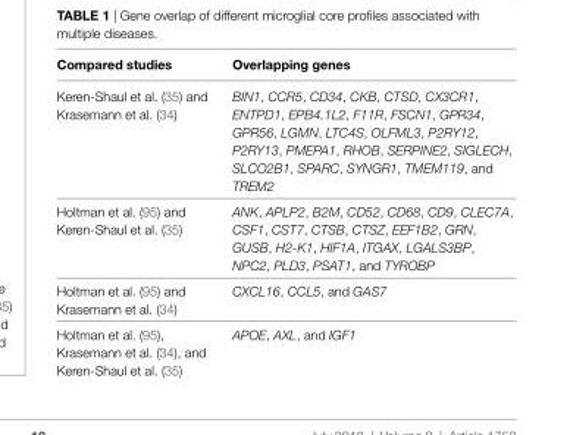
<table><thead><tr><td>Compared studies</td><td>Overlapping genes</td></tr></thead><tbody><tr><td>Keren-Shaul et al. (35) and Krasemann et al. (34)</td><td>BIN1, CCR5, CD34, CKB, CTSD, CX3CR1, ENTPD1, EPB4.1L2, F11R, FSCN1, GPR34, GPR56, LGMN, LTC4S, OLFML3, P2RY12, P2RY13, PMEPA1, RHOB, SERPINE2, SIGLECH, SLCO2B1, SPARC, SYNGR1, TMEM119, and TREM2</td></tr><tr><td>Holtman et al. (95) and Keren-Shaul et al. (35)</td><td>ANK, APLP2, B2M, CD52, CD68, CD9, CLEC7A, CSF1, CST7, CTSB, CTSZ, EEF1B2, GRN, GUSB, H2-K1, HIF1A, ITGAX, LGALS3BP, NPC2, PLD3, PSAT1, and TYROBP</td></tr><tr><td>Holtman et al. (95) and Krasemann et al. (34)</td><td>CXCL16, CCL5, and GAS7</td></tr><tr><td>Holtman et al. (95), Krasemann et al. (34), and Keren-Shaul et al. (35)</td><td>APOE, AXL, and IGF1</td></tr></tbody></table>